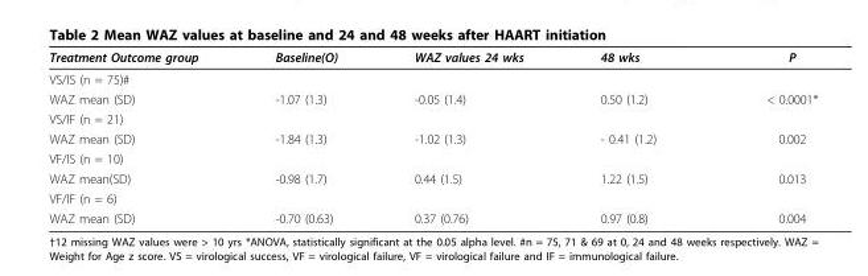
<table><thead><tr><td>Treatment Outcome group</td><td>Baseline(O)</td><td>WAZ values 24 wks</td><td>48 wks</td><td>P</td></tr></thead><tbody><tr><td colspan="5">VS/IS (n = 75)#</td></tr><tr><td>WAZ mean (SD)</td><td>-1.07 (1.3)</td><td>-0.05 (1.4)</td><td>0.50 (1.2)</td><td>&lt; 0.0001*</td></tr><tr><td colspan="5">VS/IF (n = 21)</td></tr><tr><td>WAZ mean (SD)</td><td>-1.84 (1.3)</td><td>-1.02 (1.3)</td><td>- 0.41 (1.2)</td><td>0.002</td></tr><tr><td colspan="5">VF/IS (n = 10)</td></tr><tr><td>WAZ mean(SD)</td><td>-0.98 (1.7)</td><td>0.44 (1.5)</td><td>1.22 (1.5)</td><td>0.013</td></tr><tr><td colspan="5">VF/IF (n = 6)</td></tr><tr><td>WAZ mean (SD)</td><td>-0.70 (0.63)</td><td>0.37 (0.76)</td><td>0.97 (0.8)</td><td>0.004</td></tr></tbody></table>